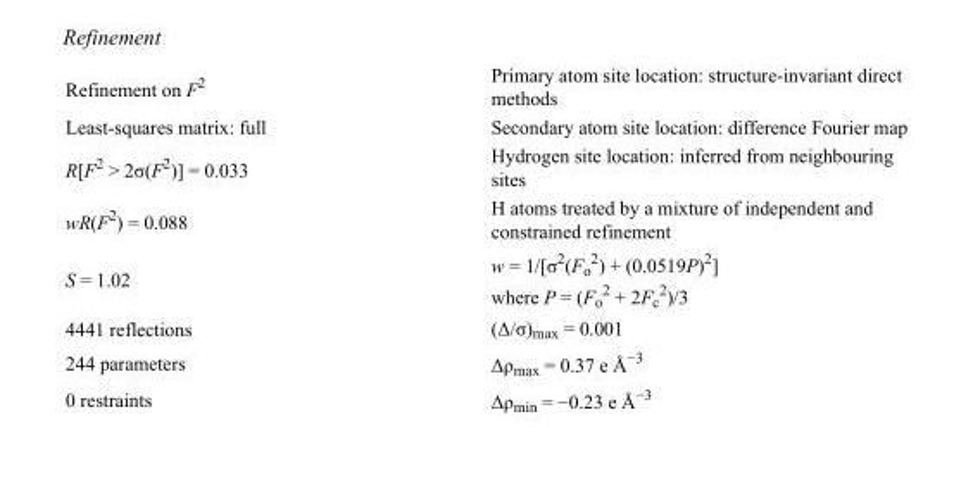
<table><tbody><tr><td>Refinement on F<sup>2</sup></td><td>Primary atom site location: structure-invariant direct methods</td></tr><tr><td>Least-squares matrix: full</td><td>Secondary atom site location: difference Fourier map</td></tr><tr><td>R[F<sup>2</sup> &gt; 2σ(F<sup>2</sup>)] = 0.033</td><td>Hydrogen site location: inferred from neighbouring sites</td></tr><tr><td>wR(F<sup>2</sup>) = 0.088</td><td>H atoms treated by a mixture of independent and constrained refinement</td></tr><tr><td>S = 1.02</td><td>w = 1/[σ<sup>2</sup>(F<sub>o</sub> <sup>2</sup>) + (0.0519P)<sup>2</sup>] where P = (F<sub>o</sub> <sup>2</sup> + 2F<sub>c</sub> <sup>2</sup>)/3</td></tr><tr><td>4441 reflections</td><td>(Δ/σ)<sub>max</sub> = 0.001</td></tr><tr><td>244 parameters</td><td>Δρ<sub>max</sub> = 0.37 e Å<sup>−3</sup></td></tr><tr><td>0 restraints</td><td>Δρ<sub>min</sub> = −0.23 e Å<sup>−3</sup></td></tr></tbody></table>